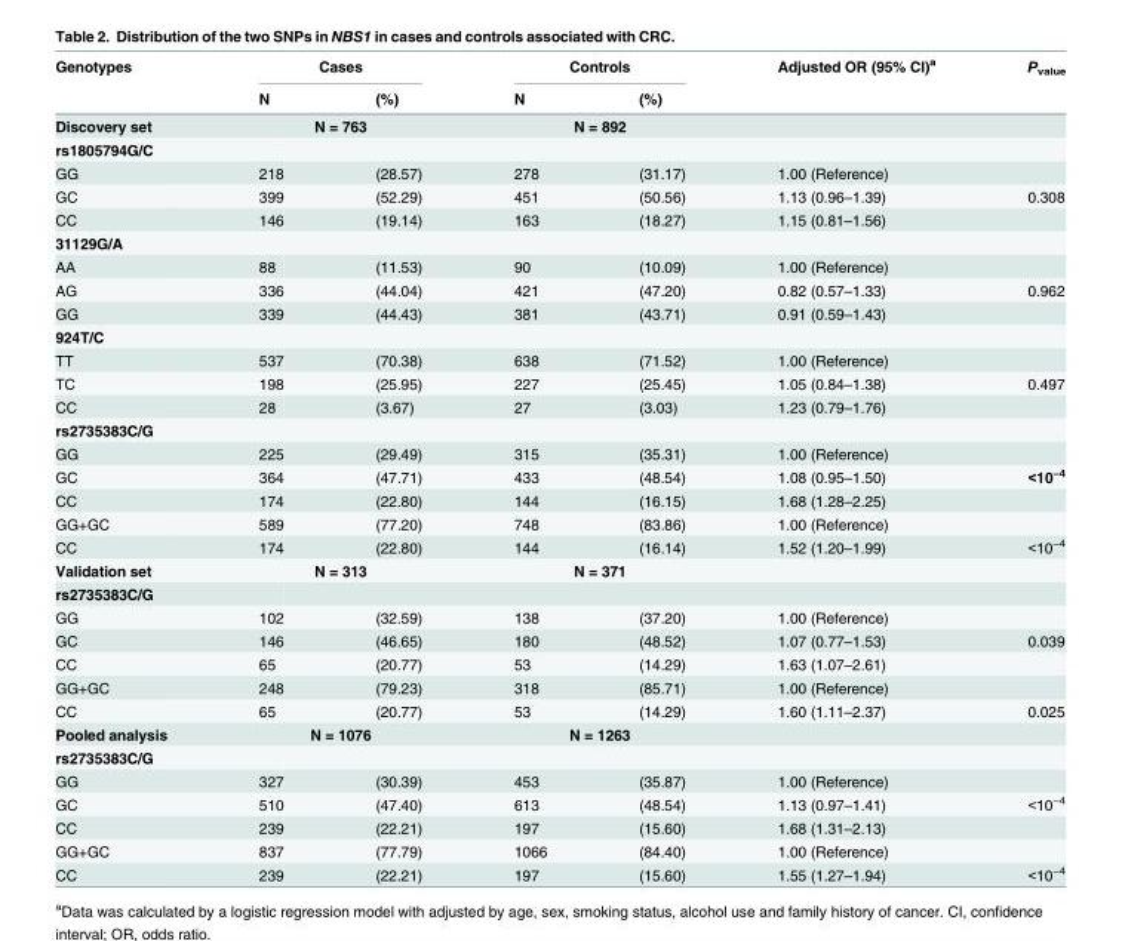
<table><thead><tr><td rowspan="2">Genotypes</td><td colspan="2">Cases</td><td colspan="2">Controls</td><td rowspan="2">Adjusted OR (95% CI)<sup>a</sup></td><td rowspan="2">P<sub>value</sub></td></tr><tr><td>N</td><td>(%)</td><td>N</td><td>(%)</td></tr></thead><tbody><tr><td>Discovery set</td><td colspan="2">N = 763</td><td colspan="2">N = 892</td><td></td><td></td></tr><tr><td colspan="7">rs1805794G/C</td></tr><tr><td>GG</td><td>218</td><td>(28.57)</td><td>278</td><td>(31.17)</td><td>1.00 (Reference)</td><td></td></tr><tr><td>GC</td><td>399</td><td>(52.29)</td><td>451</td><td>(50.56)</td><td>1.13 (0.96–1.39)</td><td>0.308</td></tr><tr><td>CC</td><td>146</td><td>(19.14)</td><td>163</td><td>(18.27)</td><td>1.15 (0.81–1.56)</td><td></td></tr><tr><td colspan="7">31129G/A</td></tr><tr><td>AA</td><td>88</td><td>(11.53)</td><td>90</td><td>(10.09)</td><td>1.00 (Reference)</td><td></td></tr><tr><td>AG</td><td>336</td><td>(44.04)</td><td>421</td><td>(47.20)</td><td>0.82 (0.57–1.33)</td><td>0.962</td></tr><tr><td>GG</td><td>339</td><td>(44.43)</td><td>381</td><td>(43.71)</td><td>0.91 (0.59–1.43)</td><td></td></tr><tr><td colspan="7">924T/C</td></tr><tr><td>TT</td><td>537</td><td>(70.38)</td><td>638</td><td>(71.52)</td><td>1.00 (Reference)</td><td></td></tr><tr><td>TC</td><td>198</td><td>(25.95)</td><td>227</td><td>(25.45)</td><td>1.05 (0.84–1.38)</td><td>0.497</td></tr><tr><td>CC</td><td>28</td><td>(3.67)</td><td>27</td><td>(3.03)</td><td>1.23 (0.79–1.76)</td><td></td></tr><tr><td colspan="7">rs2735383C/G</td></tr><tr><td>GG</td><td>225</td><td>(29.49)</td><td>315</td><td>(35.31)</td><td>1.00 (Reference)</td><td></td></tr><tr><td>GC</td><td>364</td><td>(47.71)</td><td>433</td><td>(48.54)</td><td>1.08 (0.95–1.50)</td><td>&lt;10<sup>−4</sup></td></tr><tr><td>CC</td><td>174</td><td>(22.80)</td><td>144</td><td>(16.15)</td><td>1.68 (1.28–2.25)</td><td></td></tr><tr><td>GG+GC</td><td>589</td><td>(77.20)</td><td>748</td><td>(83.86)</td><td>1.00 (Reference)</td><td></td></tr><tr><td>CC</td><td>174</td><td>(22.80)</td><td>144</td><td>(16.14)</td><td>1.52 (1.20–1.99)</td><td>&lt;10<sup>−4</sup></td></tr><tr><td>Validation set</td><td colspan="2">N = 313</td><td colspan="2">N = 371</td><td></td><td></td></tr><tr><td colspan="7">rs2735383C/G</td></tr><tr><td>GG</td><td>102</td><td>(32.59)</td><td>138</td><td>(37.20)</td><td>1.00 (Reference)</td><td></td></tr><tr><td>GC</td><td>146</td><td>(46.65)</td><td>180</td><td>(48.52)</td><td>1.07 (0.77–1.53)</td><td>0.039</td></tr><tr><td>CC</td><td>65</td><td>(20.77)</td><td>53</td><td>(14.29)</td><td>1.63 (1.07–2.61)</td><td></td></tr><tr><td>GG+GC</td><td>248</td><td>(79.23)</td><td>318</td><td>(85.71)</td><td>1.00 (Reference)</td><td></td></tr><tr><td>CC</td><td>65</td><td>(20.77)</td><td>53</td><td>(14.29)</td><td>1.60 (1.11–2.37)</td><td>0.025</td></tr><tr><td>Pooled analysis</td><td colspan="2">N = 1076</td><td colspan="2">N = 1263</td><td></td><td></td></tr><tr><td colspan="7">rs2735383C/G</td></tr><tr><td>GG</td><td>327</td><td>(30.39)</td><td>453</td><td>(35.87)</td><td>1.00 (Reference)</td><td></td></tr><tr><td>GC</td><td>510</td><td>(47.40)</td><td>613</td><td>(48.54)</td><td>1.13 (0.97–1.41)</td><td>&lt;10<sup>−4</sup></td></tr><tr><td>CC</td><td>239</td><td>(22.21)</td><td>197</td><td>(15.60)</td><td>1.68 (1.31–2.13)</td><td></td></tr><tr><td>GG+GC</td><td>837</td><td>(77.79)</td><td>1066</td><td>(84.40)</td><td>1.00 (Reference)</td><td></td></tr><tr><td>CC</td><td>239</td><td>(22.21)</td><td>197</td><td>(15.60)</td><td>1.55 (1.27–1.94)</td><td>&lt;10<sup>−4</sup></td></tr></tbody></table>